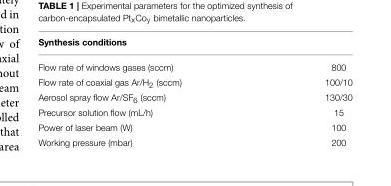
<table><thead><tr><td>Synthesis conditions</td><td></td></tr></thead><tbody><tr><td>Flow rate of windows gases (sccm)</td><td>800</td></tr><tr><td>Flow rate of coaxial gas Ar/H<sub>2</sub> (sccm)</td><td>100/10</td></tr><tr><td>Aerosol spray flow Ar/SF<sub>6</sub> (sccm)</td><td>130/30</td></tr><tr><td>Precursor solution flow (mL/h)</td><td>15</td></tr><tr><td>Power of laser beam (W)</td><td>100</td></tr><tr><td>Working pressure (mbar)</td><td>200</td></tr></tbody></table>